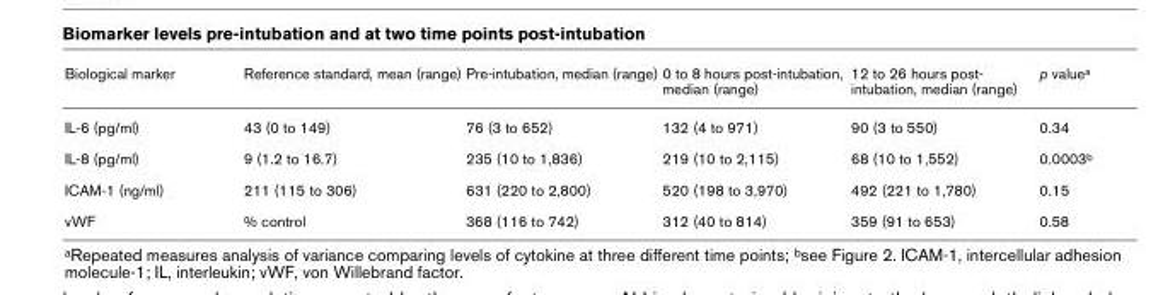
<table><thead><tr><td>Biological marker</td><td>Reference standard, mean (range)</td><td>Pre-intubation, median (range)</td><td>0 to 8 hours post-intubation, median (range)</td><td>12 to 26 hours post- intubation, median (range)</td><td>p valuea</td></tr></thead><tbody><tr><td>IL-6 (pg/ml)</td><td>43 (0 to 149)</td><td>76 (3 to 652)</td><td>132 (4 to 971)</td><td>90 (3 to 550)</td><td>0.34</td></tr><tr><td>IL-8 (pg/ml)</td><td>9 (1.2 to 16.7)</td><td>235 (10 to 1,836)</td><td>219 (10 to 2,115)</td><td>68 (10 to 1,552)</td><td>0.0003b</td></tr><tr><td>ICAM-1 (ng/ml)</td><td>211 (115 to 306)</td><td>631 (220 to 2,800)</td><td>520 (198 to 3,970)</td><td>492 (221 to 1,780)</td><td>0.15</td></tr><tr><td>vWF</td><td>% control</td><td>368 (116 to 742)</td><td>312 (40 to 814)</td><td>359 (91 to 653)</td><td>0.58</td></tr></tbody></table>